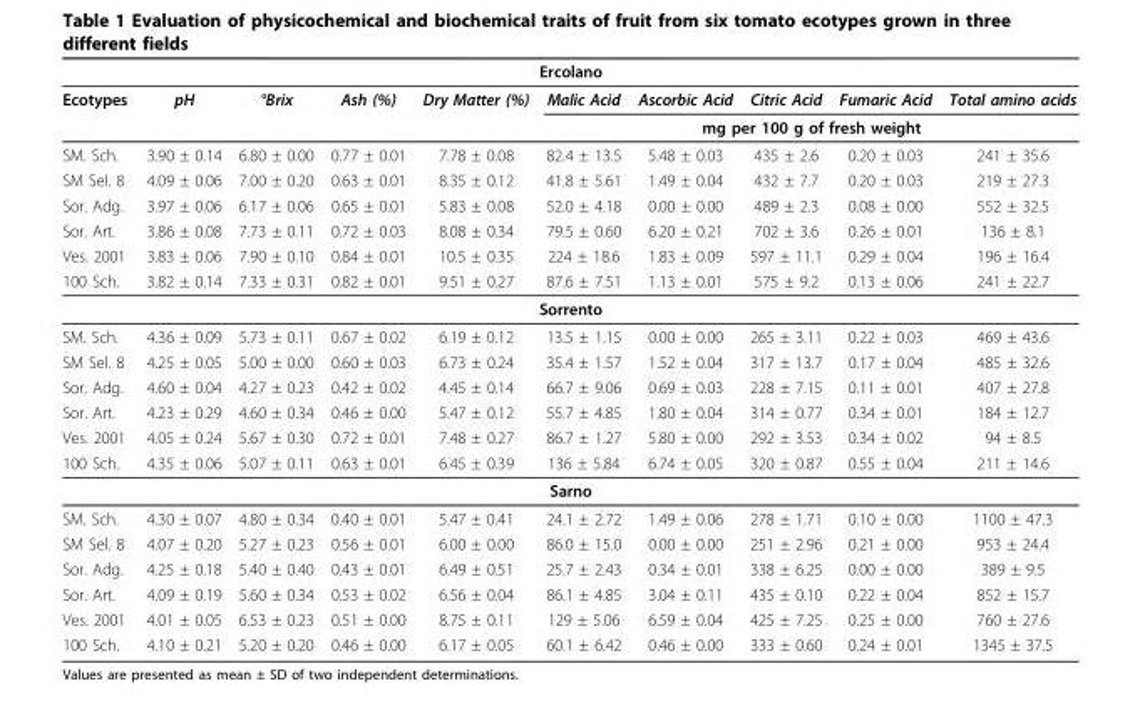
<table><thead><tr><td colspan="10">Ercolano</td></tr><tr><td>Ecotypes</td><td>pH</td><td>°Brix</td><td>Ash (%)</td><td>Dry Matter (%)</td><td>Malic Acid</td><td>Ascorbic Acid</td><td>Citric Acid</td><td>Fumaric Acid</td><td>Total amino acids</td></tr></thead><tbody><tr><td></td><td></td><td></td><td></td><td></td><td colspan="5">mg per 100 g of fresh weight</td></tr><tr><td>SM. Sch.</td><td>3.90 ± 0.14</td><td>6.80 ± 0.00</td><td>0.77 ± 0.01</td><td>7.78 ± 0.08</td><td>82.4 ± 13.5</td><td>5.48 ± 0.03</td><td>435 ± 2.6</td><td>0.20 ± 0.03</td><td>241 ± 35.6</td></tr><tr><td>SM Sel. 8</td><td>4.09 ± 0.06</td><td>7.00 ± 0.20</td><td>0.63 ± 0.01</td><td>8.35 ± 0.12</td><td>41.8 ± 5.61</td><td>1.49 ± 0.04</td><td>432 ± 7.7</td><td>0.20 ± 0.03</td><td>219 ± 27.3</td></tr><tr><td>Sor. Adg.</td><td>3.97 ± 0.06</td><td>6.17 ± 0.06</td><td>0.65 ± 0.01</td><td>5.83 ± 0.08</td><td>52.0 ± 4.18</td><td>0.00 ± 0.00</td><td>489 ± 2.3</td><td>0.08 ± 0.00</td><td>552 ± 32.5</td></tr><tr><td>Sor. Art.</td><td>3.86 ± 0.08</td><td>7.73 ± 0.11</td><td>0.72 ± 0.03</td><td>8.08 ± 0.34</td><td>79.5 ± 0.60</td><td>6.20 ± 0.21</td><td>702 ± 3.6</td><td>0.26 ± 0.01</td><td>136 ± 8.1</td></tr><tr><td>Ves. 2001</td><td>3.83 ± 0.06</td><td>7.90 ± 0.10</td><td>0.84 ± 0.01</td><td>10.5 ± 0.35</td><td>224 ± 18.6</td><td>1.83 ± 0.09</td><td>597 ± 11.1</td><td>0.29 ± 0.04</td><td>196 ± 16.4</td></tr><tr><td>100 Sch.</td><td>3.82 ± 0.14</td><td>7.33 ± 0.31</td><td>0.82 ± 0.01</td><td>9.51 ± 0.27</td><td>87.6 ± 7.51</td><td>1.13 ± 0.01</td><td>575 ± 9.2</td><td>0.13 ± 0.06</td><td>241 ± 22.7</td></tr><tr><td colspan="10">Sorrento</td></tr><tr><td>SM. Sch.</td><td>4.36 ± 0.09</td><td>5.73 ± 0.11</td><td>0.67 ± 0.02</td><td>6.19 ± 0.12</td><td>13.5 ± 1.15</td><td>0.00 ± 0.00</td><td>265 ± 3.11</td><td>0.22 ± 0.03</td><td>469 ± 43.6</td></tr><tr><td>SM Sel. 8</td><td>4.25 ± 0.05</td><td>5.00 ± 0.00</td><td>0.60 ± 0.03</td><td>6.73 ± 0.24</td><td>35.4 ± 1.57</td><td>1.52 ± 0.04</td><td>317 ± 13.7</td><td>0.17 ± 0.04</td><td>485 ± 32.6</td></tr><tr><td>Sor. Adg.</td><td>4.60 ± 0.04</td><td>4.27 ± 0.23</td><td>0.42 ± 0.02</td><td>4.45 ± 0.14</td><td>66.7 ± 9.06</td><td>0.69 ± 0.03</td><td>228 ± 7.15</td><td>0.11 ± 0.01</td><td>407 ± 27.8</td></tr><tr><td>Sor. Art.</td><td>4.23 ± 0.29</td><td>4.60 ± 0.34</td><td>0.46 ± 0.00</td><td>5.47 ± 0.12</td><td>55.7 ± 4.85</td><td>1.80 ± 0.04</td><td>314 ± 0.77</td><td>0.34 ± 0.01</td><td>184 ± 12.7</td></tr><tr><td>Ves. 2001</td><td>4.05 ± 0.24</td><td>5.67 ± 0.30</td><td>0.72 ± 0.01</td><td>7.48 ± 0.27</td><td>86.7 ± 1.27</td><td>5.80 ± 0.00</td><td>292 ± 3.53</td><td>0.34 ± 0.02</td><td>94 ± 8.5</td></tr><tr><td>100 Sch.</td><td>4.35 ± 0.06</td><td>5.07 ± 0.11</td><td>0.63 ± 0.01</td><td>6.45 ± 0.39</td><td>136 ± 5.84</td><td>6.74 ± 0.05</td><td>320 ± 0.87</td><td>0.55 ± 0.04</td><td>211 ± 14.6</td></tr><tr><td colspan="10">Sarno</td></tr><tr><td>SM. Sch.</td><td>4.30 ± 0.07</td><td>4.80 ± 0.34</td><td>0.40 ± 0.01</td><td>5.47 ± 0.41</td><td>24.1 ± 2.72</td><td>1.49 ± 0.06</td><td>278 ± 1.71</td><td>0.10 ± 0.00</td><td>1100 ± 47.3</td></tr><tr><td>SM Sel. 8</td><td>4.07 ± 0.20</td><td>5.27 ± 0.23</td><td>0.56 ± 0.01</td><td>6.00 ± 0.00</td><td>86.0 ± 15.0</td><td>0.00 ± 0.00</td><td>251 ± 2.96</td><td>0.21 ± 0.00</td><td>953 ± 24.4</td></tr><tr><td>Sor. Adg.</td><td>4.25 ± 0.18</td><td>5.40 ± 0.40</td><td>0.43 ± 0.01</td><td>6.49 ± 0.51</td><td>25.7 ± 2.43</td><td>0.34 ± 0.01</td><td>338 ± 6.25</td><td>0.00 ± 0.00</td><td>389 ± 9.5</td></tr><tr><td>Sor. Art.</td><td>4.09 ± 0.19</td><td>5.60 ± 0.34</td><td>0.53 ± 0.02</td><td>6.56 ± 0.04</td><td>86.1 ± 4.85</td><td>3.04 ± 0.11</td><td>435 ± 0.10</td><td>0.22 ± 0.04</td><td>852 ± 15.7</td></tr><tr><td>Ves. 2001</td><td>4.01 ± 0.05</td><td>6.53 ± 0.23</td><td>0.51 ± 0.00</td><td>8.75 ± 0.11</td><td>129 ± 5.06</td><td>6.59 ± 0.04</td><td>425 ± 7.25</td><td>0.25 ± 0.00</td><td>760 ± 27.6</td></tr><tr><td>100 Sch.</td><td>4.10 ± 0.21</td><td>5.20 ± 0.20</td><td>0.46 ± 0.00</td><td>6.17 ± 0.05</td><td>60.1 ± 6.42</td><td>0.46 ± 0.00</td><td>333 ± 0.60</td><td>0.24 ± 0.01</td><td>1345 ± 37.5</td></tr></tbody></table>